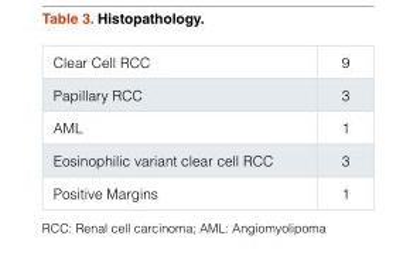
<table><tbody><tr><td>Clear Cell RCC</td><td>9</td></tr><tr><td>Papillary RCC</td><td>3</td></tr><tr><td>AML</td><td>1</td></tr><tr><td>Eosinophilic variant clear cell RCC</td><td>3</td></tr><tr><td>Positive Margins</td><td>1</td></tr></tbody></table>